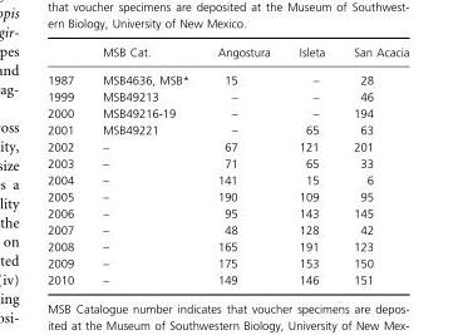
<table><thead><tr><td></td><td>MSB Cat.</td><td>Angostura</td><td>Isleta</td><td>San Acacia</td></tr></thead><tbody><tr><td>1987</td><td>MSB4636, MSB*</td><td>15</td><td>–</td><td>28</td></tr><tr><td>1999</td><td>MSB49213</td><td>–</td><td>–</td><td>46</td></tr><tr><td>2000</td><td>MSB49216-19</td><td>–</td><td>–</td><td>194</td></tr><tr><td>2001</td><td>MSB49221</td><td>–</td><td>65</td><td>63</td></tr><tr><td>2002</td><td>–</td><td>67</td><td>121</td><td>201</td></tr><tr><td>2003</td><td>–</td><td>71</td><td>65</td><td>33</td></tr><tr><td>2004</td><td>–</td><td>141</td><td>15</td><td>6</td></tr><tr><td>2005</td><td>–</td><td>190</td><td>109</td><td>95</td></tr><tr><td>2006</td><td>–</td><td>95</td><td>143</td><td>145</td></tr><tr><td>2007</td><td>–</td><td>48</td><td>128</td><td>42</td></tr><tr><td>2008</td><td>–</td><td>165</td><td>191</td><td>123</td></tr><tr><td>2009</td><td>–</td><td>175</td><td>153</td><td>150</td></tr><tr><td>2010</td><td>–</td><td>149</td><td>146</td><td>151</td></tr></tbody></table>